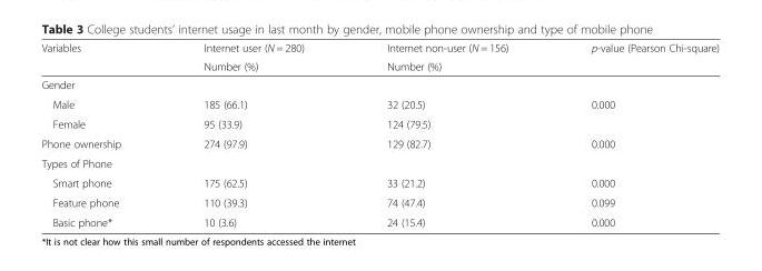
<table><thead><tr><td rowspan="2">Variables</td><td rowspan="2">Internet user (N = 280) Number (%)</td><td rowspan="2">Internet non-user (N = 156) Number (%)</td><td rowspan="2">p-value (Pearson Chi-square)</td></tr><tr></tr></thead><tbody><tr><td colspan="4">Gender</td></tr><tr><td>Male</td><td>185 (66.1)</td><td>32 (20.5)</td><td>0.000</td></tr><tr><td>Female</td><td>95 (33.9)</td><td>124 (79.5)</td><td></td></tr><tr><td>Phone ownership</td><td>274 (97.9)</td><td>129 (82.7)</td><td>0.000</td></tr><tr><td colspan="4">Types of Phone</td></tr><tr><td>Smart phone</td><td>175 (62.5)</td><td>33 (21.2)</td><td>0.000</td></tr><tr><td>Feature phone</td><td>110 (39.3)</td><td>74 (47.4)</td><td>0.099</td></tr><tr><td>Basic phone*</td><td>10 (3.6)</td><td>24 (15.4)</td><td>0.000</td></tr></tbody></table>